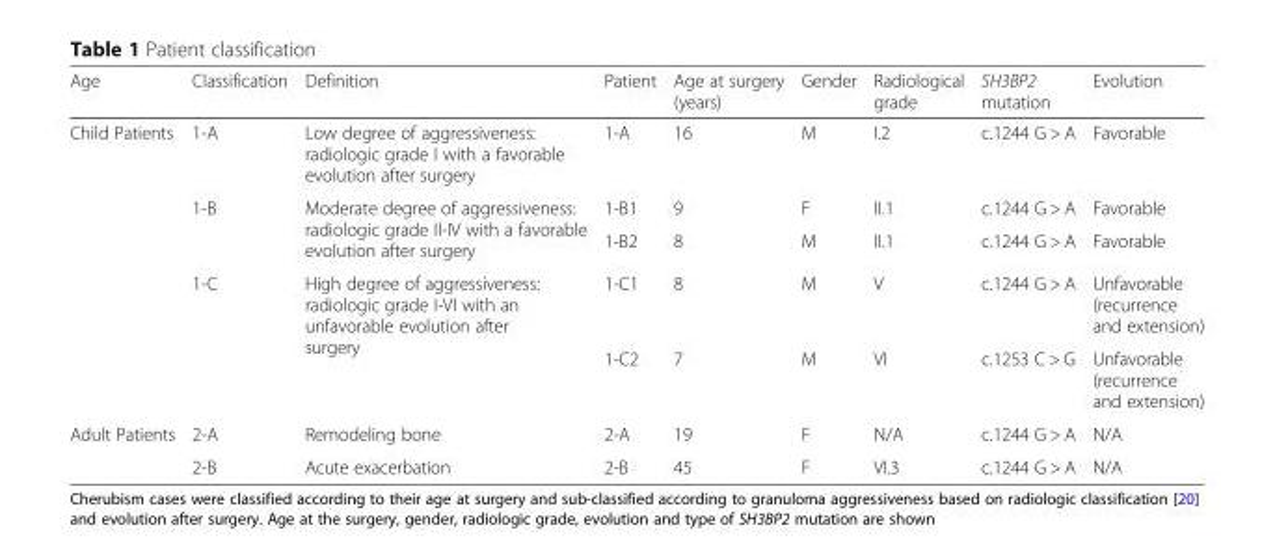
<table><thead><tr><td>Age</td><td>Classification</td><td>Definition</td><td>Patient</td><td>Age at surgery (years)</td><td>Gender</td><td>Radiological grade</td><td>SH3BP2 mutation</td><td>Evolution</td></tr></thead><tbody><tr><td rowspan="5">Child Patients</td><td>1-A</td><td>Low degree of aggressiveness: radiologic grade I with a favorable evolution after surgery</td><td>1-A</td><td>16</td><td>M</td><td>I.2</td><td>c.1244 G &gt; A</td><td>Favorable</td></tr><tr><td rowspan="2">1-B</td><td rowspan="2">Moderate degree of aggressiveness: radiologic grade II-IV with a favorable evolution after surgery</td><td>1-B1</td><td>9</td><td>F</td><td>II.1</td><td>c.1244 G &gt; A</td><td>Favorable</td></tr><tr><td>1-B2</td><td>8</td><td>M</td><td>II.1</td><td>c.1244 G &gt; A</td><td>Favorable</td></tr><tr><td rowspan="2">1-C</td><td rowspan="2">High degree of aggressiveness: radiologic grade I-VI with an unfavorable evolution after surgery</td><td>1-C1</td><td>8</td><td>M</td><td>V</td><td>c.1244 G &gt; A</td><td>Unfavorable (recurrence and extension)</td></tr><tr><td>1-C2</td><td>7</td><td>M</td><td>VI</td><td>c.1253 C &gt; G</td><td>Unfavorable (recurrence and extension)</td></tr><tr><td rowspan="2">Adult Patients</td><td>2-A</td><td>Remodeling bone</td><td>2-A</td><td>19</td><td>F</td><td>N/A</td><td>c.1244 G &gt; A</td><td>N/A</td></tr><tr><td>2-B</td><td>Acute exacerbation</td><td>2-B</td><td>45</td><td>F</td><td>VI.3</td><td>c.1244 G &gt; A</td><td>N/A</td></tr></tbody></table>